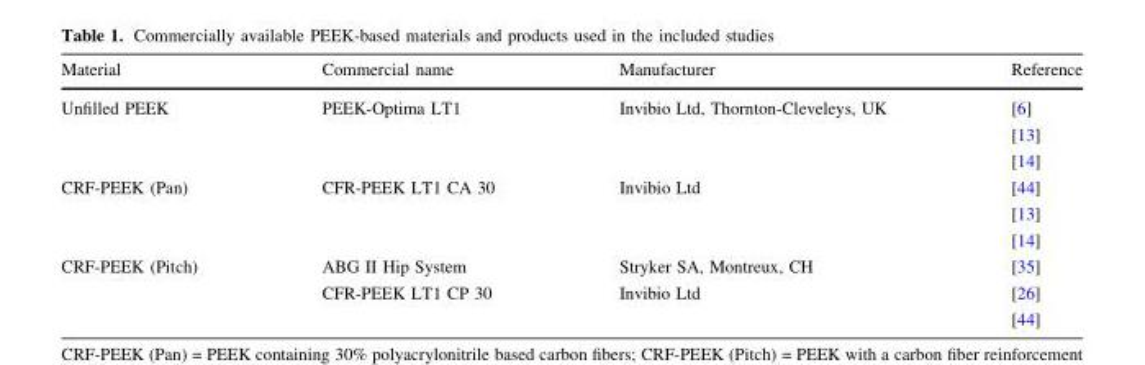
<table><thead><tr><td>Material</td><td>Commercial name</td><td>Manufacturer</td><td>Reference</td></tr></thead><tbody><tr><td>Unfilled PEEK</td><td>PEEK-Optima LT1</td><td>Invibio Ltd, Thornton-Cleveleys, UK</td><td>[6] [13] [14]</td></tr><tr><td>CRF-PEEK (Pan)</td><td>CFR-PEEK LT1 CA 30</td><td>Invibio Ltd</td><td>[44] [13] [14]</td></tr><tr><td>CRF-PEEK (Pitch)</td><td>ABG II Hip System CFR-PEEK LT1 CP 30</td><td>Stryker SA, Montreux, CH Invibio Ltd</td><td>[35] [26]</td></tr></tbody></table>